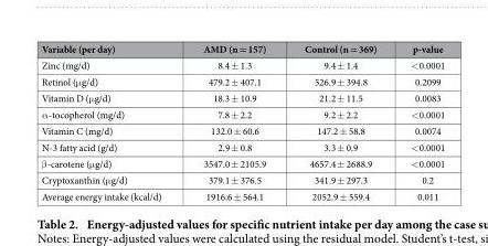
<table><thead><tr><td>Variable (per day)</td><td>AMD (n = 157)</td><td>Control (n = 369)</td><td>p-value</td></tr></thead><tbody><tr><td>Zinc (mg/d)</td><td>8.4 ± 1.3</td><td>9.4 ± 1.4</td><td>&lt; 0.0001</td></tr><tr><td>Retinol (μ g/d)</td><td>479.2 ± 407.1</td><td>526.9 ± 394.8</td><td>0.2099</td></tr><tr><td>Vitamin D (μ g/d)</td><td>18.3 ± 10.9</td><td>21.2 ± 11.5</td><td>0.0083</td></tr><tr><td>α -tocopherol (mg/d)</td><td>7.8 ± 2.2</td><td>9.2 ± 2.2</td><td>&lt; 0.0001</td></tr><tr><td>Vitamin C (mg/d)</td><td>132.0 ± 60.6</td><td>147.2 ± 58.8</td><td>0.0074</td></tr><tr><td>N-3 fatty acid (g/d)</td><td>2.9 ± 0.8</td><td>3.3 ± 0.9</td><td>&lt; 0.0001</td></tr><tr><td>β -carotene (μ g/d)</td><td>3547.0 ± 2105.9</td><td>4657.4 ± 2688.9</td><td>&lt; 0.0001</td></tr><tr><td>Cryptoxanthin (μ g/d)</td><td>379.1 ± 376.5</td><td>341.9 ± 297.3</td><td>0.2</td></tr><tr><td>Average energy intake (kcal/d)</td><td>1916.6 ± 564.1</td><td>2052.9 ± 559.4</td><td>0.011</td></tr></tbody></table>